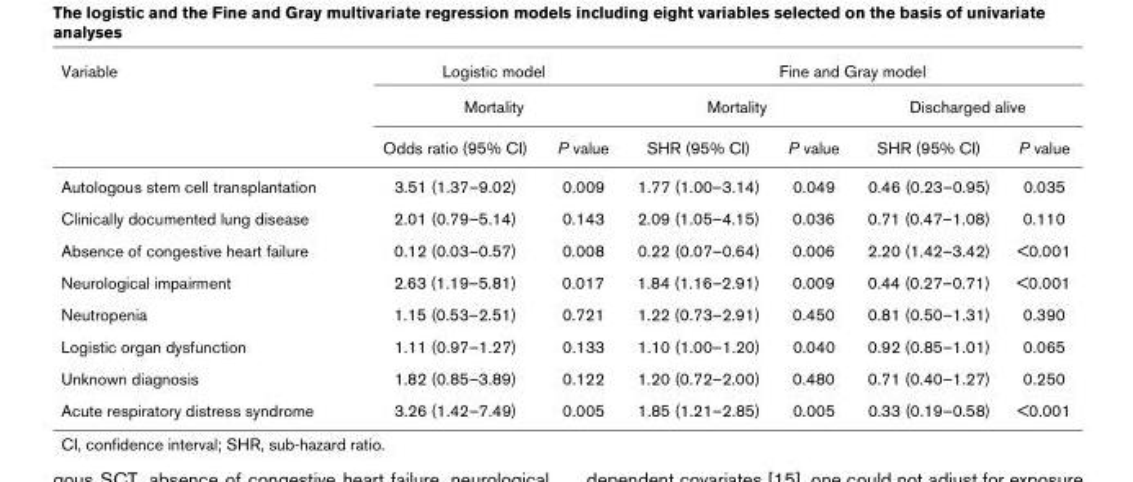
<table><thead><tr><td rowspan="3">Variable</td><td rowspan="2" colspan="2">Logistic model Mortality</td><td colspan="4">Fine and Gray model</td></tr><tr><td colspan="2">Mortality</td><td colspan="2">Discharged alive</td></tr><tr><td>Odds ratio (95% CI)</td><td>P value</td><td>SHR (95% CI)</td><td>P value</td><td>SHR (95% CI)</td><td>P value</td></tr></thead><tbody><tr><td>Autologous stem cell transplantation</td><td>3.51 (1.37–9.02)</td><td>0.009</td><td>1.77 (1.00–3.14)</td><td>0.049</td><td>0.46 (0.23–0.95)</td><td>0.035</td></tr><tr><td>Clinically documented lung disease</td><td>2.01 (0.79–5.14)</td><td>0.143</td><td>2.09 (1.05–4.15)</td><td>0.036</td><td>0.71 (0.47–1.08)</td><td>0.110</td></tr><tr><td>Absence of congestive heart failure</td><td>0.12 (0.03–0.57)</td><td>0.008</td><td>0.22 (0.07–0.64)</td><td>0.006</td><td>2.20 (1.42–3.42)</td><td>&lt;0.001</td></tr><tr><td>Neurological impairment</td><td>2.63 (1.19–5.81)</td><td>0.017</td><td>1.84 (1.16–2.91)</td><td>0.009</td><td>0.44 (0.27–0.71)</td><td>&lt;0.001</td></tr><tr><td>Neutropenia</td><td>1.15 (0.53–2.51)</td><td>0.721</td><td>1.22 (0.73–2.91)</td><td>0.450</td><td>0.81 (0.50–1.31)</td><td>0.390</td></tr><tr><td>Logistic organ dysfunction</td><td>1.11 (0.97–1.27)</td><td>0.133</td><td>1.10 (1.00–1.20)</td><td>0.040</td><td>0.92 (0.85–1.01)</td><td>0.065</td></tr><tr><td>Unknown diagnosis</td><td>1.82 (0.85–3.89)</td><td>0.122</td><td>1.20 (0.72–2.00)</td><td>0.480</td><td>0.71 (0.40–1.27)</td><td>0.250</td></tr><tr><td>Acute respiratory distress syndrome</td><td>3.26 (1.42–7.49)</td><td>0.005</td><td>1.85 (1.21–2.85)</td><td>0.005</td><td>0.33 (0.19–0.58)</td><td>&lt;0.001</td></tr></tbody></table>